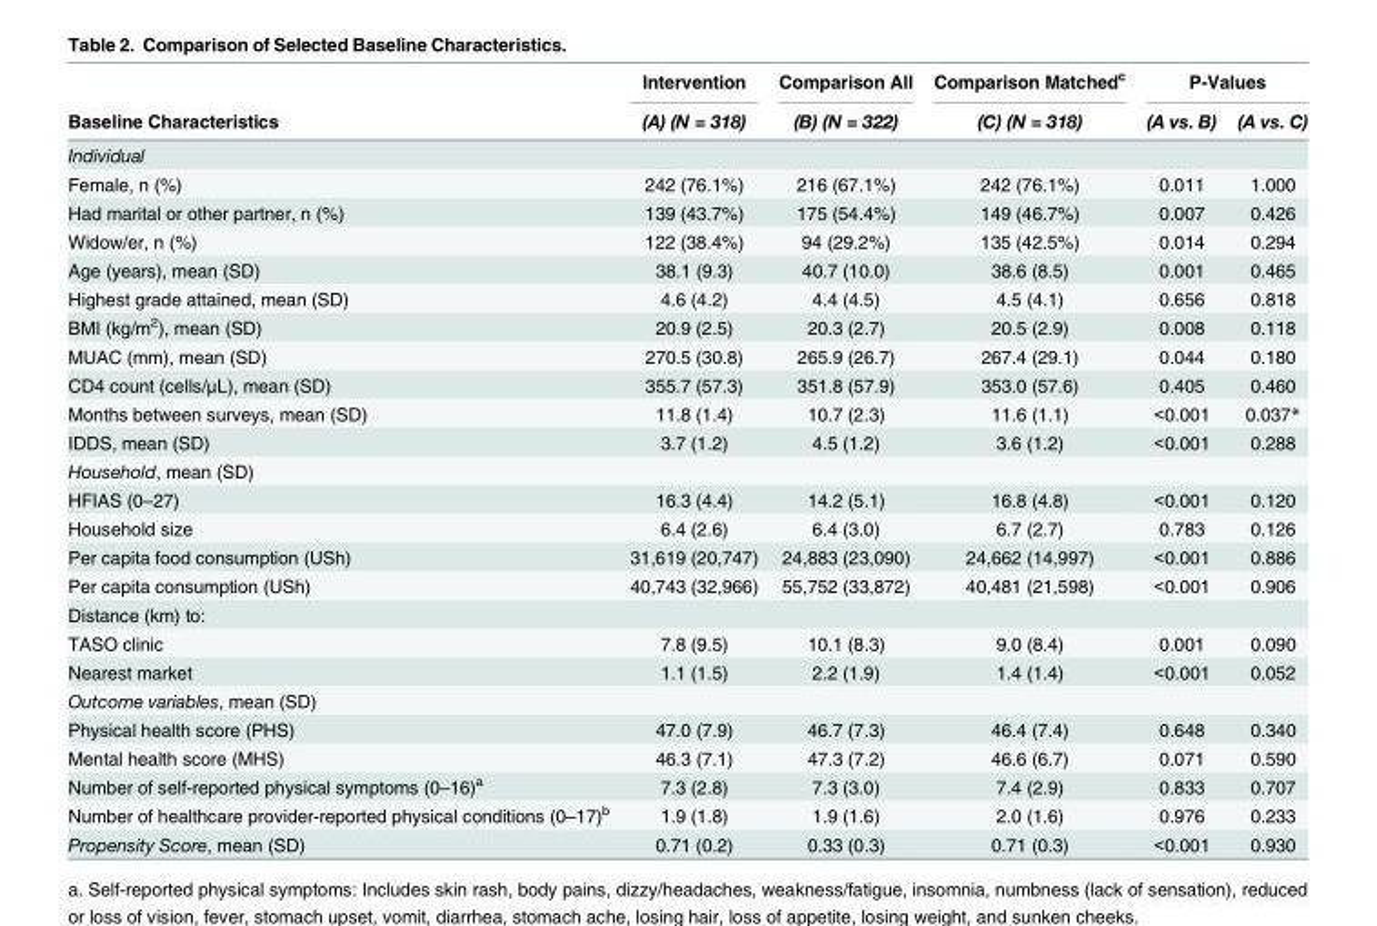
<table><thead><tr><td rowspan="2">Baseline Characteristics</td><td rowspan="2">Intervention (A) (N = 318)</td><td rowspan="2">Comparison All (B) (N = 322)</td><td rowspan="2">Comparison Matched<sup>c</sup> (C) (N = 318)</td><td colspan="2">P-Values</td></tr><tr><td>(A vs. B)</td><td>(A vs. C)</td></tr></thead><tbody><tr><td colspan="6">Individual</td></tr><tr><td>Female, n (%)</td><td>242 (76.1%)</td><td>216 (67.1%)</td><td>242 (76.1%)</td><td>0.011</td><td>1.000</td></tr><tr><td>Had marital or other partner, n (%)</td><td>139 (43.7%)</td><td>175 (54.4%)</td><td>149 (46.7%)</td><td>0.007</td><td>0.426</td></tr><tr><td>Widow/er, n (%)</td><td>122 (38.4%)</td><td>94 (29.2%)</td><td>135 (42.5%)</td><td>0.014</td><td>0.294</td></tr><tr><td>Age (years), mean (SD)</td><td>38.1 (9.3)</td><td>40.7 (10.0)</td><td>38.6 (8.5)</td><td>0.001</td><td>0.465</td></tr><tr><td>Highest grade attained, mean (SD)</td><td>4.6 (4.2)</td><td>4.4 (4.5)</td><td>4.5 (4.1)</td><td>0.656</td><td>0.818</td></tr><tr><td>BMI (kg/m<sup>2</sup>), mean (SD)</td><td>20.9 (2.5)</td><td>20.3 (2.7)</td><td>20.5 (2.9)</td><td>0.008</td><td>0.118</td></tr><tr><td>MUAC (mm), mean (SD)</td><td>270.5 (30.8)</td><td>265.9 (26.7)</td><td>267.4 (29.1)</td><td>0.044</td><td>0.180</td></tr><tr><td>CD4 count (cells/μL), mean (SD)</td><td>355.7 (57.3)</td><td>351.8 (57.9)</td><td>353.0 (57.6)</td><td>0.405</td><td>0.460</td></tr><tr><td>Months between surveys, mean (SD)</td><td>11.8 (1.4)</td><td>10.7 (2.3)</td><td>11.6 (1.1)</td><td>&lt;0.001</td><td>0.037*</td></tr><tr><td>IDDS, mean (SD)</td><td>3.7 (1.2)</td><td>4.5 (1.2)</td><td>3.6 (1.2)</td><td>&lt;0.001</td><td>0.288</td></tr><tr><td colspan="6">Household, mean (SD)</td></tr><tr><td>HFIAS (0–27)</td><td>16.3 (4.4)</td><td>14.2 (5.1)</td><td>16.8 (4.8)</td><td>&lt;0.001</td><td>0.120</td></tr><tr><td>Household size</td><td>6.4 (2.6)</td><td>6.4 (3.0)</td><td>6.7 (2.7)</td><td>0.783</td><td>0.126</td></tr><tr><td>Per capita food consumption (USh)</td><td>31,619 (20,747)</td><td>24,883 (23,090)</td><td>24,662 (14,997)</td><td>&lt;0.001</td><td>0.886</td></tr><tr><td>Per capita consumption (USh)</td><td>40,743 (32,966)</td><td>55,752 (33,872)</td><td>40,481 (21,598)</td><td>&lt;0.001</td><td>0.906</td></tr><tr><td colspan="6">Distance (km) to:</td></tr><tr><td>TASO clinic</td><td>7.8 (9.5)</td><td>10.1 (8.3)</td><td>9.0 (8.4)</td><td>0.001</td><td>0.090</td></tr><tr><td>Nearest market</td><td>1.1 (1.5)</td><td>2.2 (1.9)</td><td>1.4 (1.4)</td><td>&lt;0.001</td><td>0.052</td></tr><tr><td colspan="6">Outcome variables, mean (SD)</td></tr><tr><td>Physical health score (PHS)</td><td>47.0 (7.9)</td><td>46.7 (7.3)</td><td>46.4 (7.4)</td><td>0.648</td><td>0.340</td></tr><tr><td>Mental health score (MHS)</td><td>46.3 (7.1)</td><td>47.3 (7.2)</td><td>46.6 (6.7)</td><td>0.071</td><td>0.590</td></tr><tr><td>Number of self-reported physical symptoms (0–16)<sup>a</sup></td><td>7.3 (2.8)</td><td>7.3 (3.0)</td><td>7.4 (2.9)</td><td>0.833</td><td>0.707</td></tr><tr><td>Number of healthcare provider-reported physical conditions (0–17)<sup>b</sup></td><td>1.9 (1.8)</td><td>1.9 (1.6)</td><td>2.0 (1.6)</td><td>0.976</td><td>0.233</td></tr><tr><td>Propensity Score, mean (SD)</td><td>0.71 (0.2)</td><td>0.33 (0.3)</td><td>0.71 (0.3)</td><td>&lt;0.001</td><td>0.930</td></tr></tbody></table>